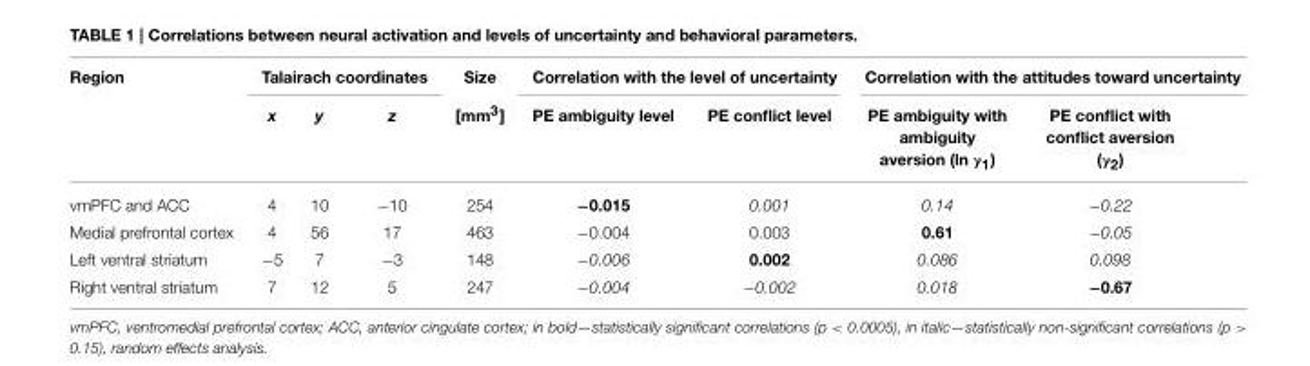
<table><thead><tr><td rowspan="2">Region</td><td colspan="3">Talairach coordinates</td><td rowspan="2">Size [mm<sup>3</sup>]</td><td colspan="2">Correlation with the level of uncertainty</td><td colspan="2">Correlation with the attitudes toward uncertainty</td></tr><tr><td>x</td><td>y</td><td>z</td><td>PE ambiguity level</td><td>PE conflict level</td><td>PE ambiguity with ambiguity aversion (ln γ<sub>1</sub>)</td><td>PE conflict with conflict aversion (γ<sub>2</sub>)</td></tr></thead><tbody><tr><td>vmPFC and ACC</td><td>4</td><td>10</td><td>−10</td><td>254</td><td>−0.015</td><td>0.001</td><td>0.14</td><td>−0.22</td></tr><tr><td>Medial prefrontal cortex</td><td>4</td><td>56</td><td>17</td><td>463</td><td>−0.004</td><td>0.003</td><td>0.61</td><td>−0.05</td></tr><tr><td>Left ventral striatum</td><td>−5</td><td>7</td><td>−3</td><td>148</td><td>−0.006</td><td>0.002</td><td>0.086</td><td>0.098</td></tr><tr><td>Right ventral striatum</td><td>7</td><td>12</td><td>5</td><td>247</td><td>−0.004</td><td>−0.002</td><td>0.018</td><td>−0.67</td></tr></tbody></table>